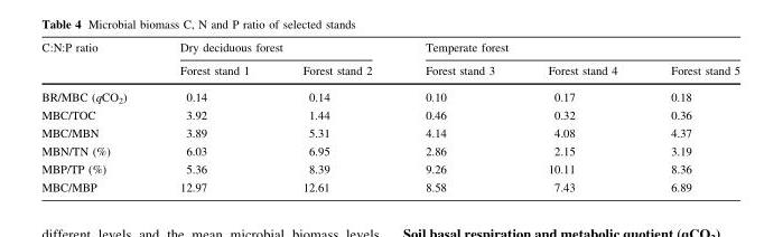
<table><thead><tr><td rowspan="2">C:N:P ratio</td><td colspan="2">Dry deciduous forest</td><td colspan="3">Temperate forest</td></tr><tr><td>Forest stand 1</td><td>Forest stand 2</td><td>Forest stand 3</td><td>Forest stand 4</td><td>Forest stand 5</td></tr></thead><tbody><tr><td>BR/MBC (qCO<sub>2</sub>)</td><td>0.14</td><td>0.14</td><td>0.10</td><td>0.17</td><td>0.18</td></tr><tr><td>MBC/TOC</td><td>3.92</td><td>1.44</td><td>0.46</td><td>0.32</td><td>0.36</td></tr><tr><td>MBC/MBN</td><td>3.89</td><td>5.31</td><td>4.14</td><td>4.08</td><td>4.37</td></tr><tr><td>MBN/TN (%)</td><td>6.03</td><td>6.95</td><td>2.86</td><td>2.15</td><td>3.19</td></tr><tr><td>MBP/TP (%)</td><td>5.36</td><td>8.39</td><td>9.26</td><td>10.11</td><td>8.36</td></tr><tr><td>MBC/MBP</td><td>12.97</td><td>12.61</td><td>8.58</td><td>7.43</td><td>6.89</td></tr></tbody></table>